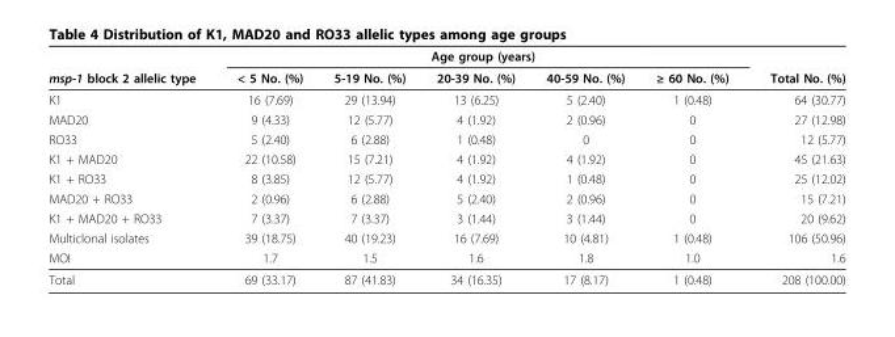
<table><thead><tr><td rowspan="2">msp-1 block 2 allelic type</td><td colspan="5">Age group (years)</td><td rowspan="2">Total No. (%)</td></tr><tr><td>&lt; 5 No. (%)</td><td>5-19 No. (%)</td><td>20-39 No. (%)</td><td>40-59 No. (%)</td><td>≥ 60 No. (%)</td></tr></thead><tbody><tr><td>K1</td><td>16 (7.69)</td><td>29 (13.94)</td><td>13 (6.25)</td><td>5 (2.40)</td><td>1 (0.48)</td><td>64 (30.77)</td></tr><tr><td>MAD20</td><td>9 (4.33)</td><td>12 (5.77)</td><td>4 (1.92)</td><td>2 (0.96)</td><td>0</td><td>27 (12.98)</td></tr><tr><td>RO33</td><td>5 (2.40)</td><td>6 (2.88)</td><td>1 (0.48)</td><td>0</td><td>0</td><td>12 (5.77)</td></tr><tr><td>K1 + MAD20</td><td>22 (10.58)</td><td>15 (7.21)</td><td>4 (1.92)</td><td>4 (1.92)</td><td>0</td><td>45 (21.63)</td></tr><tr><td>K1 + RO33</td><td>8 (3.85)</td><td>12 (5.77)</td><td>4 (1.92)</td><td>1 (0.48)</td><td>0</td><td>25 (12.02)</td></tr><tr><td>MAD20 + RO33</td><td>2 (0.96)</td><td>6 (2.88)</td><td>5 (2.40)</td><td>2 (0.96)</td><td>0</td><td>15 (7.21)</td></tr><tr><td>K1 + MAD20 + RO33</td><td>7 (3.37)</td><td>7 (3.37)</td><td>3 (1.44)</td><td>3 (1.44)</td><td>0</td><td>20 (9.62)</td></tr><tr><td>Multiclonal isolates</td><td>39 (18.75)</td><td>40 (19.23)</td><td>16 (7.69)</td><td>10 (4.81)</td><td>1 (0.48)</td><td>106 (50.96)</td></tr><tr><td>MOI</td><td>1.7</td><td>1.5</td><td>1.6</td><td>1.8</td><td>1.0</td><td>1.6</td></tr><tr><td>Total</td><td>69 (33.17)</td><td>87 (41.83)</td><td>34 (16.35)</td><td>17 (8.17)</td><td>1 (0.48)</td><td>208 (100.00)</td></tr></tbody></table>